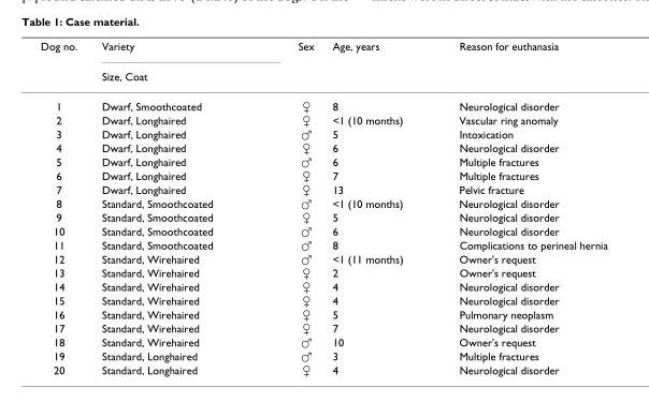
<table><thead><tr><td rowspan="2">Dog no.</td><td rowspan="2">Variety Size, Coat</td><td rowspan="2">Sex</td><td rowspan="2">Age, years</td><td rowspan="2">Reason for euthanasia</td></tr><tr></tr></thead><tbody><tr><td>1</td><td>Dwarf, Smoothcoated</td><td>♀</td><td>8</td><td>Neurological disorder</td></tr><tr><td>2</td><td>Dwarf, Longhaired</td><td>♀</td><td>&lt;1 (10 months)</td><td>Vascular ring anomaly</td></tr><tr><td>3</td><td>Dwarf, Longhaired</td><td>♂</td><td>5</td><td>Intoxication</td></tr><tr><td>4</td><td>Dwarf, Longhaired</td><td>♀</td><td>6</td><td>Neurological disorder</td></tr><tr><td>5</td><td>Dwarf, Longhaired</td><td>♂</td><td>6</td><td>Multiple fractures</td></tr><tr><td>6</td><td>Dwarf, Longhaired</td><td>♀</td><td>7</td><td>Multiple fractures</td></tr><tr><td>7</td><td>Dwarf, Longhaired</td><td>♀</td><td>13</td><td>Pelvic fracture</td></tr><tr><td>8</td><td>Standard, Smoothcoated</td><td>♂</td><td>&lt;1 (10 months)</td><td>Neurological disorder</td></tr><tr><td>9</td><td>Standard, Smoothcoated</td><td>♀</td><td>5</td><td>Neurological disorder</td></tr><tr><td>10</td><td>Standard, Smoothcoated</td><td>♂</td><td>6</td><td>Neurological disorder</td></tr><tr><td>11</td><td>Standard, Smoothcoated</td><td>♂</td><td>8</td><td>Complications to perineal hernia</td></tr><tr><td>12</td><td>Standard, Wirehaired</td><td>♂</td><td>&lt;1 (11 months)</td><td>Owner&#x27;s request</td></tr><tr><td>13</td><td>Standard, Wirehaired</td><td>♀</td><td>2</td><td>Owner&#x27;s request</td></tr><tr><td>14</td><td>Standard, Wirehaired</td><td>♀</td><td>4</td><td>Neurological disorder</td></tr><tr><td>15</td><td>Standard, Wirehaired</td><td>♀</td><td>4</td><td>Neurological disorder</td></tr><tr><td>16</td><td>Standard, Wirehaired</td><td>♀</td><td>5</td><td>Pulmonary neoplasm</td></tr><tr><td>17</td><td>Standard, Wirehaired</td><td>♀</td><td>7</td><td>Neurological disorder</td></tr><tr><td>18</td><td>Standard, Wirehaired</td><td>♂</td><td>10</td><td>Owner&#x27;s request</td></tr><tr><td>19</td><td>Standard, Longhaired</td><td>♂</td><td>3</td><td>Multiple fractures</td></tr><tr><td>20</td><td>Standard, Longhaired</td><td>♀</td><td>4</td><td>Neurological disorder</td></tr></tbody></table>